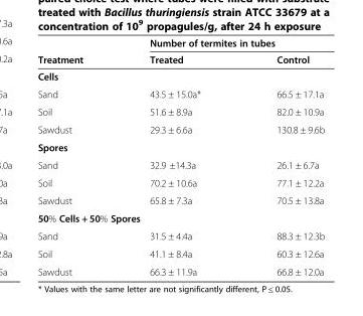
<table><thead><tr><td rowspan="2">Treatment</td><td colspan="2">Number of termites in tubes</td></tr><tr><td>Treated</td><td>Control</td></tr></thead><tbody><tr><td colspan="3">Cells</td></tr><tr><td>Sand</td><td>43.5 ± 15.0a*</td><td>66.5 ± 17.1a</td></tr><tr><td>Soil</td><td>51.6 ± 8.9a</td><td>82.0 ± 10.9a</td></tr><tr><td>Sawdust</td><td>29.3 ± 6.6a</td><td>130.8 ± 9.6b</td></tr><tr><td colspan="3">Spores</td></tr><tr><td>Sand</td><td>32.9 ±14.3a</td><td>26.1 ± 6.7a</td></tr><tr><td>Soil</td><td>70.2 ± 10.6a</td><td>77.1 ± 12.2a</td></tr><tr><td>Sawdust</td><td>65.8 ± 7.3a</td><td>70.5 ± 13.8a</td></tr><tr><td colspan="3">50% Cells + 50% Spores</td></tr><tr><td>Sand</td><td>31.5 ± 4.4a</td><td>88.3 ± 12.3b</td></tr><tr><td>Soil</td><td>41.1 ± 8.4a</td><td>60.3 ± 12.6a</td></tr><tr><td>Sawdust</td><td>66.3 ± 11.9a</td><td>66.8 ± 12.0a</td></tr></tbody></table>